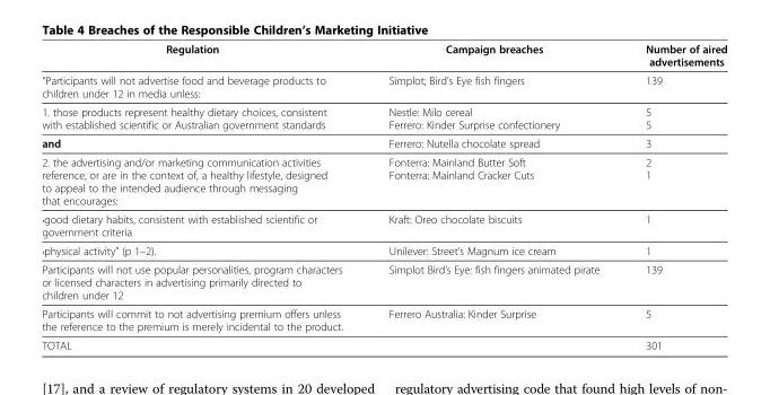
<table><thead><tr><td>Regulation</td><td>Campaign breaches</td><td>Number of aired advertisements</td></tr></thead><tbody><tr><td>“Participants will not advertise food and beverage products to children under 12 in media unless:</td><td>Simplot; Bird’s Eye fish fingers</td><td>139</td></tr><tr><td rowspan="2">1. those products represent healthy dietary choices, consistent with established scientific or Australian government standards</td><td>Nestle: Milo cereal</td><td>5</td></tr><tr><td>Ferrero: Kinder Surprise confectionery</td><td>5</td></tr><tr><td>and</td><td>Ferrero: Nutella chocolate spread</td><td>3</td></tr><tr><td rowspan="2">2. the advertising and/or marketing communication activities reference, or are in the context of, a healthy lifestyle, designed to appeal to the intended audience through messaging that encourages:</td><td>Fonterra: Mainland Butter Soft</td><td>2</td></tr><tr><td>Fonterra: Mainland Cracker Cuts</td><td>1</td></tr><tr><td>•good dietary habits, consistent with established scientific or government criteria</td><td>Kraft: Oreo chocolate biscuits</td><td>1</td></tr><tr><td>•physical activity” (p 1–2).</td><td>Unilever: Street’s Magnum ice cream</td><td>1</td></tr><tr><td>Participants will not use popular personalities, program characters or licensed characters in advertising primarily directed to children under 12</td><td>Simplot Bird’s Eye: fish fingers animated pirate</td><td>139</td></tr><tr><td>Participants will commit to not advertising premium offers unless the reference to the premium is merely incidental to the product.</td><td>Ferrero Australia: Kinder Surprise</td><td>5</td></tr><tr><td>TOTAL</td><td></td><td>301</td></tr></tbody></table>